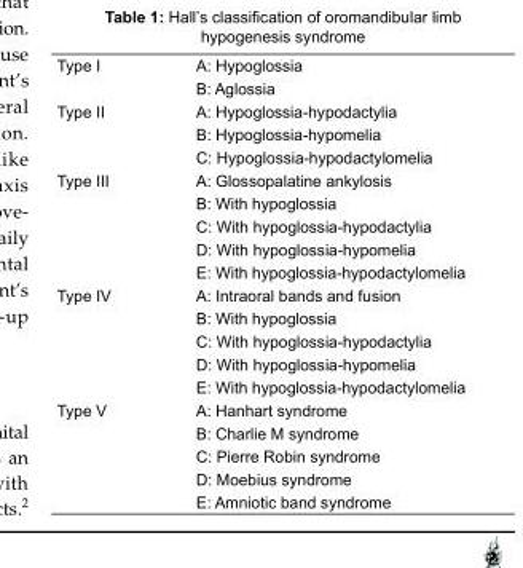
<table><tbody><tr><td rowspan="2">Type I</td><td>A: Hypoglossia</td></tr><tr><td>B: Aglossia</td></tr><tr><td rowspan="3">Type II</td><td>A: Hypoglossia-hypodactylia</td></tr><tr><td>B: Hypoglossia-hypomelia</td></tr><tr><td>C: Hypoglossia-hypodactylomelia</td></tr><tr><td rowspan="5">Type III</td><td>A: Glossopalatine ankylosis</td></tr><tr><td>B: With hypoglossia</td></tr><tr><td>C: With hypoglossia-hypodactylia</td></tr><tr><td>D: With hypoglossia-hypomelia</td></tr><tr><td>E: With hypoglossia-hypodactylomelia</td></tr><tr><td rowspan="5">Type IV</td><td>A: Intraoral bands and fusion</td></tr><tr><td>B: With hypoglossia</td></tr><tr><td>C: With hypoglossia-hypodactylia</td></tr><tr><td>D: With hypoglossia-hypomelia</td></tr><tr><td>E: With hypoglossia-hypodactylomelia</td></tr><tr><td rowspan="5">Type V</td><td>A: Hanhart syndrome</td></tr><tr><td>B: Charlie M syndrome</td></tr><tr><td>C: Pierre Robin syndrome</td></tr><tr><td>D: Moebius syndrome</td></tr><tr><td>E: Amniotic band syndrome</td></tr></tbody></table>